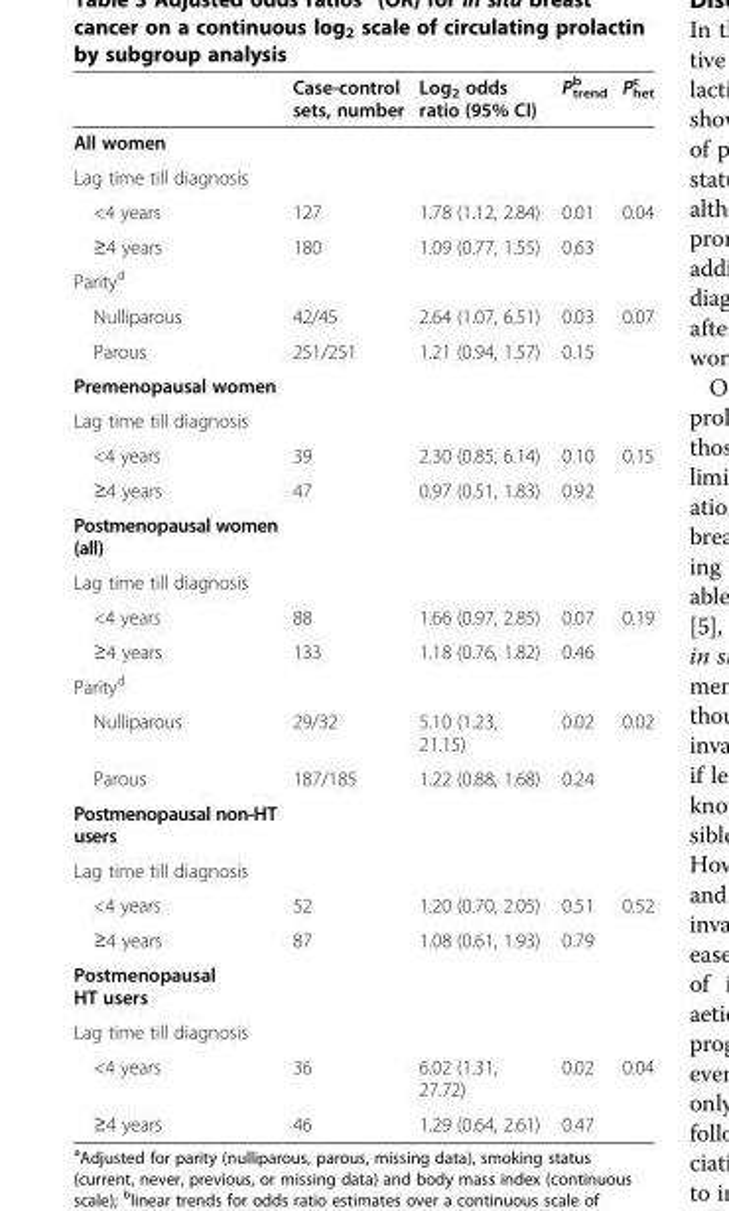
<table><thead><tr><td></td><td>Case-control sets, number</td><td>Log<sub>2</sub> odds ratio (95% CI)</td><td>P<sub>trend</sub> <sup>b</sup></td><td>P<sub>het</sub> <sup>c</sup></td></tr></thead><tbody><tr><td colspan="5">All women</td></tr><tr><td colspan="5">Lag time till diagnosis</td></tr><tr><td>&lt;4 years</td><td>127</td><td>1.78 (1.12, 2.84)</td><td>0.01</td><td>0.04</td></tr><tr><td>≥4 years</td><td>180</td><td>1.09 (0.77, 1.55)</td><td>0.63</td><td></td></tr><tr><td colspan="5">Parity<sup>d</sup></td></tr><tr><td>Nulliparous</td><td>42/45</td><td>2.64 (1.07, 6.51)</td><td>0.03</td><td>0.07</td></tr><tr><td>Parous</td><td>251/251</td><td>1.21 (0.94, 1.57)</td><td>0.15</td><td></td></tr><tr><td colspan="5">Premenopausal women</td></tr><tr><td colspan="5">Lag time till diagnosis</td></tr><tr><td>&lt;4 years</td><td>39</td><td>2.30 (0.85, 6.14)</td><td>0.10</td><td>0.15</td></tr><tr><td>≥4 years</td><td>47</td><td>0.97 (0.51, 1.83)</td><td>0.92</td><td></td></tr><tr><td colspan="5">Postmenopausal women (all)</td></tr><tr><td colspan="5">Lag time till diagnosis</td></tr><tr><td>&lt;4 years</td><td>88</td><td>1.66 (0.97, 2.85)</td><td>0.07</td><td>0.19</td></tr><tr><td>≥4 years</td><td>133</td><td>1.18 (0.76, 1.82)</td><td>0.46</td><td></td></tr><tr><td colspan="5">Parity<sup>d</sup></td></tr><tr><td>Nulliparous</td><td>29/32</td><td>5.10 (1.23, 21.15)</td><td>0.02</td><td>0.02</td></tr><tr><td>Parous</td><td>187/185</td><td>1.22 (0.88, 1.68)</td><td>0.24</td><td></td></tr><tr><td colspan="5">Postmenopausal non-HT users</td></tr><tr><td colspan="5">Lag time till diagnosis</td></tr><tr><td>&lt;4 years</td><td>52</td><td>1.20 (0.70, 2.05)</td><td>0.51</td><td>0.52</td></tr><tr><td>≥4 years</td><td>87</td><td>1.08 (0.61, 1.93)</td><td>0.79</td><td></td></tr><tr><td colspan="5">Postmenopausal HT users</td></tr><tr><td colspan="5">Lag time till diagnosis</td></tr><tr><td>&lt;4 years</td><td>36</td><td>6.02 (1.31, 27.72)</td><td>0.02</td><td>0.04</td></tr><tr><td>≥4 years</td><td>46</td><td>1.29 (0.64, 2.61)</td><td>0.47</td><td></td></tr></tbody></table>